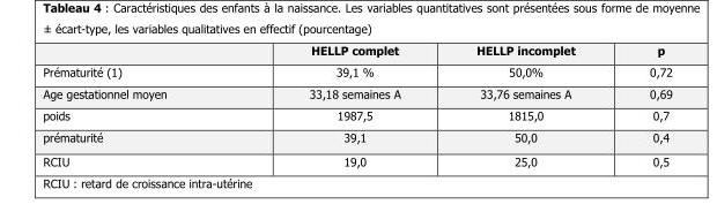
<table><thead><tr><td></td><td>HELLP complet</td><td>HELLP incomplet</td><td>p</td></tr></thead><tbody><tr><td>Prématurité (1)</td><td>39,1 %</td><td>50,0%</td><td>0,72</td></tr><tr><td>Age gestationnel moyen</td><td>33,18 semaines A</td><td>33,76 semaines A</td><td>0,69</td></tr><tr><td>poids</td><td>1987,5</td><td>1815,0</td><td>0,7</td></tr><tr><td>prématurité</td><td>39,1</td><td>50,0</td><td>0,4</td></tr><tr><td>RCIU</td><td>19,0</td><td>25,0</td><td>0,5</td></tr></tbody></table>